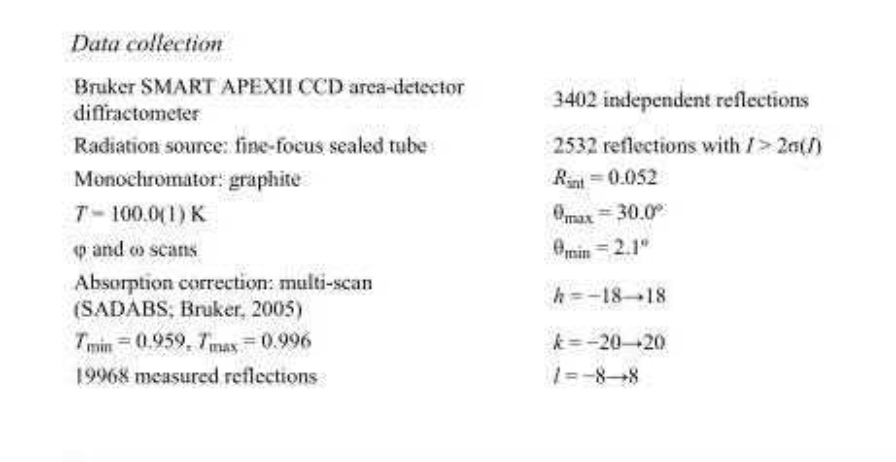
<table><tbody><tr><td>Bruker SMART APEXII CCD area-detector diffractometer</td><td>3402 independent reflections</td></tr><tr><td>Radiation source: fine-focus sealed tube</td><td>2532 reflections with I &gt; 2σ(I)</td></tr><tr><td>Monochromator: graphite</td><td>R<sub>int</sub> = 0.052</td></tr><tr><td>T = 100.0(1) K</td><td>θ<sub>max</sub> = 30.0º</td></tr><tr><td>φ and ω scans</td><td>θ<sub>min</sub> = 2.1º</td></tr><tr><td>Absorption correction: multi-scan (SADABS; Bruker, 2005)</td><td>h = −18→18</td></tr><tr><td>T<sub>min</sub> = 0.959, T<sub>max</sub> = 0.996</td><td>k = −20→20</td></tr><tr><td>19968 measured reflections</td><td>l = −8→8</td></tr></tbody></table>